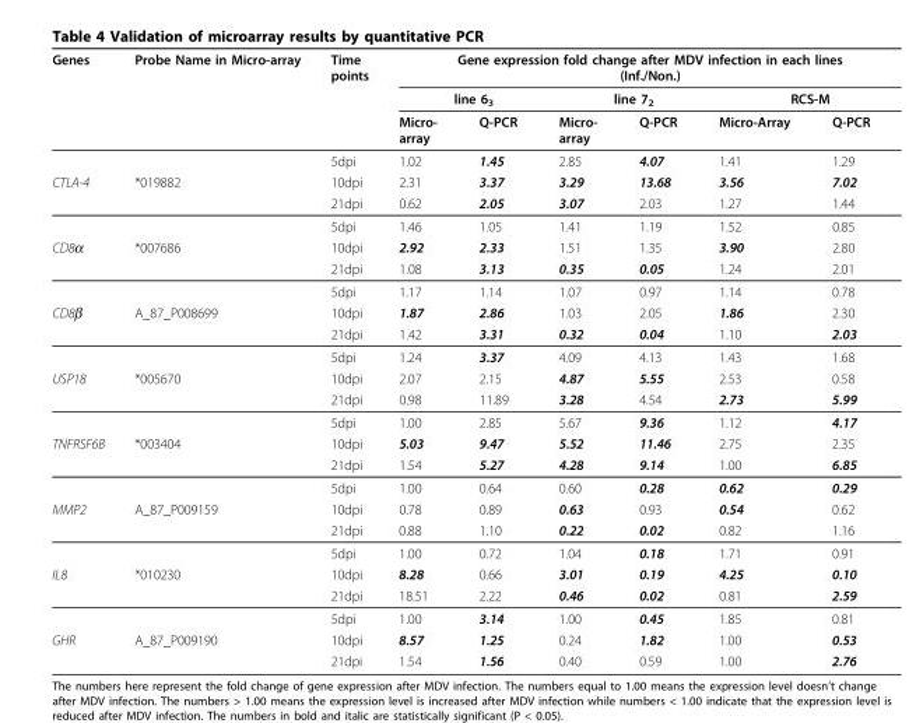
<table><thead><tr><td rowspan="3">Genes</td><td rowspan="3">Probe Name in Micro-array</td><td rowspan="3">Time points</td><td colspan="6">Gene expression fold change after MDV infection in each lines (Inf./Non.)</td></tr><tr><td colspan="2">line 6<sub>3</sub></td><td colspan="2">line 7<sub>2</sub></td><td colspan="2">RCS-M</td></tr><tr><td>Micro- array</td><td>Q-PCR</td><td>Micro- array</td><td>Q-PCR</td><td>Micro-Array</td><td>Q-PCR</td></tr></thead><tbody><tr><td></td><td></td><td>5dpi</td><td>1.02</td><td>1.45</td><td>2.85</td><td>4.07</td><td>1.41</td><td>1.29</td></tr><tr><td rowspan="3">CTLA-4</td><td>*019882</td><td>10dpi</td><td>2.31</td><td>3.37</td><td>3.29</td><td>13.68</td><td>3.56</td><td>7.02</td></tr><tr><td></td><td>21dpi</td><td>0.62</td><td>2.05</td><td>3.07</td><td>2.03</td><td>1.27</td><td>1.44</td></tr><tr><td></td><td>5dpi</td><td>1.46</td><td>1.05</td><td>1.41</td><td>1.19</td><td>1.52</td><td>0.85</td></tr><tr><td rowspan="3">CD8α</td><td>*007686</td><td>10dpi</td><td>2.92</td><td>2.33</td><td>1.51</td><td>1.35</td><td>3.90</td><td>2.80</td></tr><tr><td></td><td>21dpi</td><td>1.08</td><td>3.13</td><td>0.35</td><td>0.05</td><td>1.24</td><td>2.01</td></tr><tr><td></td><td>5dpi</td><td>1.17</td><td>1.14</td><td>1.07</td><td>0.97</td><td>1.14</td><td>0.78</td></tr><tr><td rowspan="3">CD8β</td><td>A_87_P008699</td><td>10dpi</td><td>1.87</td><td>2.86</td><td>1.03</td><td>2.05</td><td>1.86</td><td>2.30</td></tr><tr><td></td><td>21dpi</td><td>1.42</td><td>3.31</td><td>0.32</td><td>0.04</td><td>1.10</td><td>2.03</td></tr><tr><td></td><td>5dpi</td><td>1.24</td><td>3.37</td><td>4.09</td><td>4.13</td><td>1.43</td><td>1.68</td></tr><tr><td rowspan="3">USP18</td><td>*005670</td><td>10dpi</td><td>2.07</td><td>2.15</td><td>4.87</td><td>5.55</td><td>2.53</td><td>0.58</td></tr><tr><td></td><td>21dpi</td><td>0.98</td><td>11.89</td><td>3.28</td><td>4.54</td><td>2.73</td><td>5.99</td></tr><tr><td></td><td>5dpi</td><td>1.00</td><td>2.85</td><td>5.67</td><td>9.36</td><td>1.12</td><td>4.17</td></tr><tr><td rowspan="3">TNFRSF6B</td><td>*003404</td><td>10dpi</td><td>5.03</td><td>9.47</td><td>5.52</td><td>11.46</td><td>2.75</td><td>2.35</td></tr><tr><td></td><td>21dpi</td><td>1.54</td><td>5.27</td><td>4.28</td><td>9.14</td><td>1.00</td><td>6.85</td></tr><tr><td></td><td>5dpi</td><td>1.00</td><td>0.64</td><td>0.60</td><td>0.28</td><td>0.62</td><td>0.29</td></tr><tr><td rowspan="3">MMP2</td><td>A_87_P009159</td><td>10dpi</td><td>0.78</td><td>0.89</td><td>0.63</td><td>0.93</td><td>0.54</td><td>0.62</td></tr><tr><td></td><td>21dpi</td><td>0.88</td><td>1.10</td><td>0.22</td><td>0.02</td><td>0.82</td><td>1.16</td></tr><tr><td></td><td>5dpi</td><td>1.00</td><td>0.72</td><td>1.04</td><td>0.18</td><td>1.71</td><td>0.91</td></tr><tr><td rowspan="3">IL8</td><td>*010230</td><td>10dpi</td><td>8.28</td><td>0.66</td><td>3.01</td><td>0.19</td><td>4.25</td><td>0.10</td></tr><tr><td></td><td>21dpi</td><td>18.51</td><td>2.22</td><td>0.46</td><td>0.02</td><td>0.81</td><td>2.59</td></tr><tr><td></td><td>5dpi</td><td>1.00</td><td>3.14</td><td>1.00</td><td>0.45</td><td>1.85</td><td>0.81</td></tr><tr><td rowspan="2">GHR</td><td>A_87_P009190</td><td>10dpi</td><td>8.57</td><td>1.25</td><td>0.24</td><td>1.82</td><td>1.00</td><td>0.53</td></tr><tr><td></td><td>21dpi</td><td>1.54</td><td>1.56</td><td>0.40</td><td>0.59</td><td>1.00</td><td>2.76</td></tr></tbody></table>